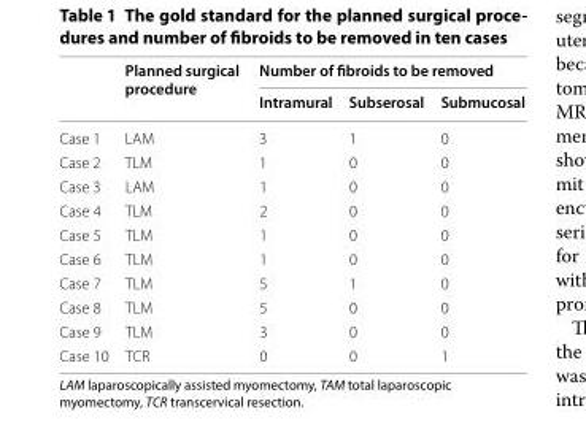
<table><thead><tr><td rowspan="2"></td><td rowspan="2">Planned surgical procedure</td><td colspan="3">Number of fibroids to be removed</td></tr><tr><td>Intramural</td><td>Subserosal</td><td>Submucosal</td></tr></thead><tbody><tr><td>Case 1</td><td>LAM</td><td>3</td><td>1</td><td>0</td></tr><tr><td>Case 2</td><td>TLM</td><td>1</td><td>0</td><td>0</td></tr><tr><td>Case 3</td><td>LAM</td><td>1</td><td>0</td><td>0</td></tr><tr><td>Case 4</td><td>TLM</td><td>2</td><td>0</td><td>0</td></tr><tr><td>Case 5</td><td>TLM</td><td>1</td><td>0</td><td>0</td></tr><tr><td>Case 6</td><td>TLM</td><td>1</td><td>0</td><td>0</td></tr><tr><td>Case 7</td><td>TLM</td><td>5</td><td>1</td><td>0</td></tr><tr><td>Case 8</td><td>TLM</td><td>5</td><td>0</td><td>0</td></tr><tr><td>Case 9</td><td>TLM</td><td>3</td><td>0</td><td>0</td></tr><tr><td>Case 10</td><td>TCR</td><td>0</td><td>0</td><td>1</td></tr></tbody></table>